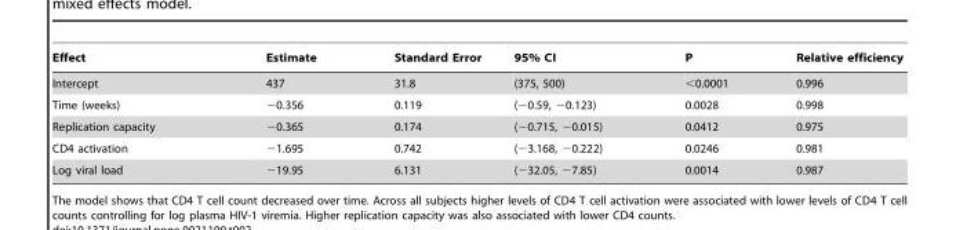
<table><thead><tr><td>Effect</td><td>Estimate</td><td>Standard Error</td><td>95% CI</td><td>P</td><td>Relative efficiency</td></tr></thead><tbody><tr><td>Intercept</td><td>437</td><td>31.8</td><td>(375, 500)</td><td>&lt;0.0001</td><td>0.996</td></tr><tr><td>Time (weeks)</td><td>−0.356</td><td>0.119</td><td>(−0.59, −0.123)</td><td>0.0028</td><td>0.998</td></tr><tr><td>Replication capacity</td><td>−0.365</td><td>0.174</td><td>(−0.715, −0.015)</td><td>0.0412</td><td>0.975</td></tr><tr><td>CD4 activation</td><td>−1.695</td><td>0.742</td><td>(−3.168, −0.222)</td><td>0.0246</td><td>0.981</td></tr><tr><td>Log viral load</td><td>−19.95</td><td>6.131</td><td>(−32.05, −7.85)</td><td>0.0014</td><td>0.987</td></tr></tbody></table>